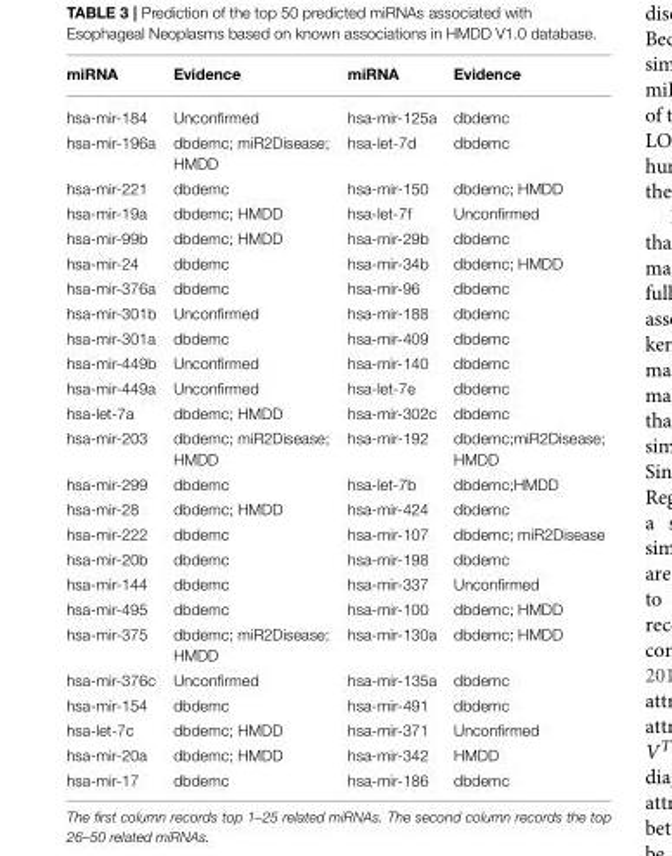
<table><thead><tr><td>miRNA</td><td>Evidence</td><td>miRNA</td><td>Evidence</td></tr></thead><tbody><tr><td>hsa-mir-184</td><td>Unconfirmed</td><td>hsa-mir-125a</td><td>dbdemc</td></tr><tr><td>hsa-mir-196a</td><td>dbdemc; miR2Disease; HMDD</td><td>hsa-let-7d</td><td>dbdemc</td></tr><tr><td>hsa-mir-221</td><td>dbdemc</td><td>hsa-mir-150</td><td>dbdemc; HMDD</td></tr><tr><td>hsa-mir-19a</td><td>dbdemc; HMDD</td><td>hsa-let-7f</td><td>Unconfirmed</td></tr><tr><td>hsa-mir-99b</td><td>dbdemc; HMDD</td><td>hsa-mir-29b</td><td>dbdemc</td></tr><tr><td>hsa-mir-24</td><td>dbdemc</td><td>hsa-mir-34b</td><td>dbdemc; HMDD</td></tr><tr><td>hsa-mir-376a</td><td>dbdemc</td><td>hsa-mir-96</td><td>dbdemc</td></tr><tr><td>hsa-mir-301b</td><td>Unconfirmed</td><td>hsa-mir-188</td><td>dbdemc</td></tr><tr><td>hsa-mir-301a</td><td>dbdemc</td><td>hsa-mir-409</td><td>dbdemc</td></tr><tr><td>hsa-mir-449b</td><td>Unconfirmed</td><td>hsa-mir-140</td><td>dbdemc</td></tr><tr><td>hsa-mir-449a</td><td>Unconfirmed</td><td>hsa-let-7e</td><td>dbdemc</td></tr><tr><td>hsa-let-7a</td><td>dbdemc; HMDD</td><td>hsa-mir-302c</td><td>dbdemc</td></tr><tr><td>hsa-mir-203</td><td>dbdemc; miR2Disease; HMDD</td><td>hsa-mir-192</td><td>dbdemc;miR2Disease; HMDD</td></tr><tr><td>hsa-mir-299</td><td>dbdemc</td><td>hsa-let-7b</td><td>dbdemc;HMDD</td></tr><tr><td>hsa-mir-28</td><td>dbdemc; HMDD</td><td>hsa-mir-424</td><td>dbdemc</td></tr><tr><td>hsa-mir-222</td><td>dbdemc</td><td>hsa-mir-107</td><td>dbdemc; miR2Disease</td></tr><tr><td>hsa-mir-20b</td><td>dbdemc</td><td>hsa-mir-198</td><td>dbdemc</td></tr><tr><td>hsa-mir-144</td><td>dbdemc</td><td>hsa-mir-337</td><td>Unconfirmed</td></tr><tr><td>hsa-mir-495</td><td>dbdemc</td><td>hsa-mir-100</td><td>dbdemc; HMDD</td></tr><tr><td>hsa-mir-375</td><td>dbdemc; miR2Disease; HMDD</td><td>hsa-mir-130a</td><td>dbdemc; HMDD</td></tr><tr><td>hsa-mir-376c</td><td>Unconfirmed</td><td>hsa-mir-135a</td><td>dbdemc</td></tr><tr><td>hsa-mir-154</td><td>dbdemc</td><td>hsa-mir-491</td><td>dbdemc</td></tr><tr><td>hsa-let-7c</td><td>dbdemc; HMDD</td><td>hsa-mir-371</td><td>Unconfirmed</td></tr><tr><td>hsa-mir-20a</td><td>dbdemc; HMDD</td><td>hsa-mir-342</td><td>HMDD</td></tr><tr><td>hsa-mir-17</td><td>dbdemc</td><td>hsa-mir-186</td><td>dbdemc</td></tr></tbody></table>